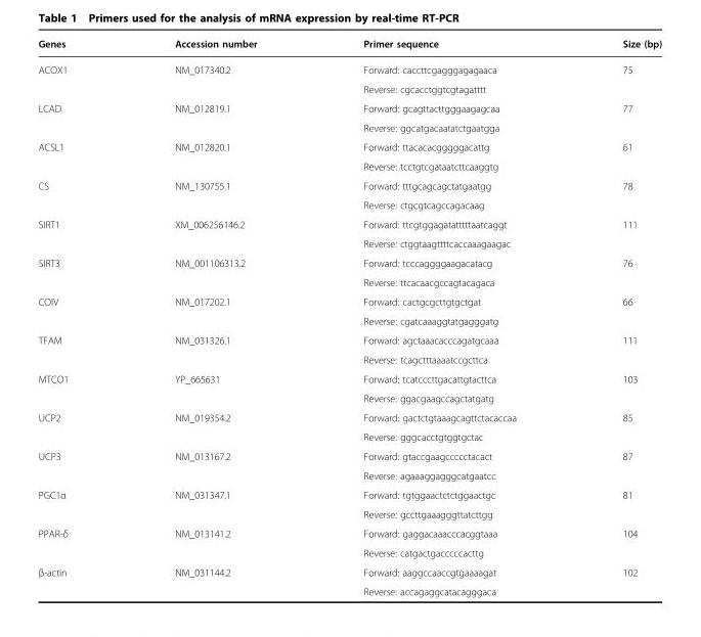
<table><thead><tr><td>Genes</td><td>Accession number</td><td>Primer sequence</td><td>Size (bp)</td></tr></thead><tbody><tr><td rowspan="2">ACOX1</td><td>NM_017340.2</td><td>Forward: caccttcgagggagagaaca</td><td>75</td></tr><tr><td></td><td>Reverse: cgcacctggtcgtagatttt</td><td></td></tr><tr><td rowspan="2">LCAD</td><td>NM_012819.1</td><td>Forward: gcagttacttgggaagagcaa</td><td>77</td></tr><tr><td></td><td>Reverse: ggcatgacaatatctgaatgga</td><td></td></tr><tr><td rowspan="2">ACSL1</td><td>NM_012820.1</td><td>Forward: ttacacacgggggacattg</td><td>61</td></tr><tr><td></td><td>Reverse: tcctgtcgataatcttcaaggtg</td><td></td></tr><tr><td rowspan="2">CS</td><td>NM_130755.1</td><td>Forward: tttgcagcagctatgaatgg</td><td>78</td></tr><tr><td></td><td>Reverse: ctgcgtcagccagacaag</td><td></td></tr><tr><td rowspan="2">SIRT1</td><td>XM_006256146.2</td><td>Forward: ttcgtggagatatttttaatcaggt</td><td>111</td></tr><tr><td></td><td>Reverse: ctggtaagttttcaccaaagaagac</td><td></td></tr><tr><td rowspan="2">SIRT3</td><td>NM_001106313.2</td><td>Forward: tcccaggggaagacatacg</td><td>76</td></tr><tr><td></td><td>Reverse: ttcacaacgccagtacagaca</td><td></td></tr><tr><td rowspan="2">COIV</td><td>NM_017202.1</td><td>Forward: cactgcgcttgtgctgat</td><td>66</td></tr><tr><td></td><td>Reverse: cgatcaaaggtatgagggatg</td><td></td></tr><tr><td rowspan="2">TFAM</td><td>NM_031326.1</td><td>Forward: agctaaacacccagatgcaaa</td><td>111</td></tr><tr><td></td><td>Reverse: tcagctttaaaatccgcttca</td><td></td></tr><tr><td rowspan="2">MTCO1</td><td>YP_665631</td><td>Forward: tcatcccttgacattgtacttca</td><td>103</td></tr><tr><td></td><td>Reverse: ggacgaagccagctatgatg</td><td></td></tr><tr><td rowspan="2">UCP2</td><td>NM_019354.2</td><td>Forward: gactctgtaaagcagttctacaccaa</td><td>85</td></tr><tr><td></td><td>Reverse: gggcacctgtggtgctac</td><td></td></tr><tr><td rowspan="2">UCP3</td><td>NM_013167.2</td><td>Forward: gtaccgaagccccctacact</td><td>87</td></tr><tr><td></td><td>Reverse: agaaaggagggcatgaatcc</td><td></td></tr><tr><td rowspan="2">PGC1α</td><td>NM_031347.1</td><td>Forward: tgtggaactctctggaactgc</td><td>81</td></tr><tr><td></td><td>Reverse: gccttgaaagggttatcttgg</td><td></td></tr><tr><td rowspan="2">PPAR-δ</td><td>NM_013141.2</td><td>Forward: gaggacaaacccacggtaaa</td><td>104</td></tr><tr><td></td><td>Reverse: catgactgacccccacttg</td><td></td></tr><tr><td rowspan="2">β-actin</td><td>NM_031144.2</td><td>Forward: aaggccaaccgtgaaaagat</td><td>102</td></tr><tr><td></td><td>Reverse: accagaggcatacagggaca</td><td></td></tr></tbody></table>